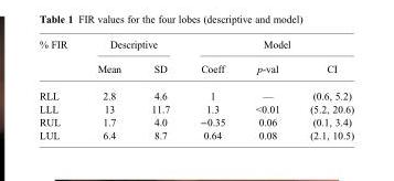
<table><thead><tr><td rowspan="2">% FIR</td><td colspan="2">Descriptive</td><td colspan="3">Model</td></tr><tr><td>Mean</td><td>SD</td><td>Coeff</td><td>p-val</td><td>CI</td></tr></thead><tbody><tr><td>RLL</td><td>2.8</td><td>4.6</td><td>1</td><td>—</td><td>(0.6, 5.2)</td></tr><tr><td>LLL</td><td>13</td><td>11.7</td><td>1.3</td><td>&lt;0.01</td><td>(5.2, 20.6)</td></tr><tr><td>RUL</td><td>1.7</td><td>4.0</td><td>−0.35</td><td>0.06</td><td>(0.1, 3.4)</td></tr><tr><td>LUL</td><td>6.4</td><td>8.7</td><td>0.64</td><td>0.08</td><td>(2.1, 10.5)</td></tr></tbody></table>